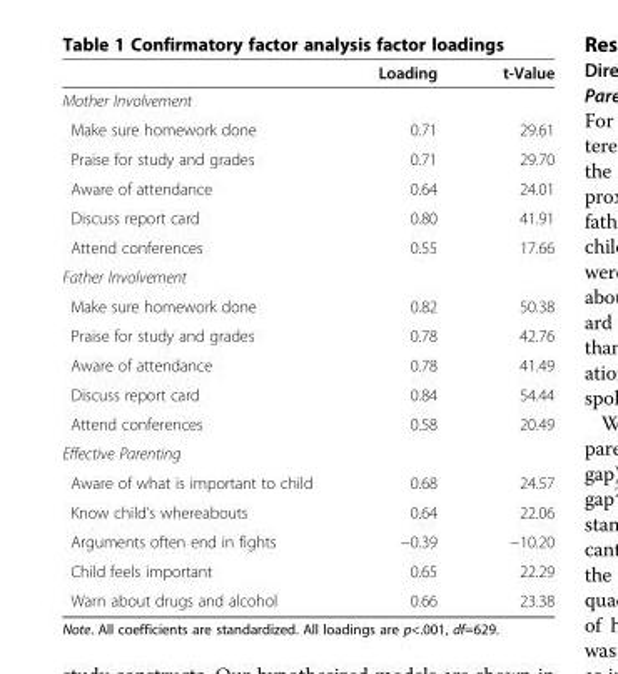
<table><thead><tr><td></td><td>Loading</td><td>t-Value</td></tr></thead><tbody><tr><td colspan="3">Mother Involvement</td></tr><tr><td>Make sure homework done</td><td>0.71</td><td>29.61</td></tr><tr><td>Praise for study and grades</td><td>0.71</td><td>29.70</td></tr><tr><td>Aware of attendance</td><td>0.64</td><td>24.01</td></tr><tr><td>Discuss report card</td><td>0.80</td><td>41.91</td></tr><tr><td>Attend conferences</td><td>0.55</td><td>17.66</td></tr><tr><td colspan="3">Father Involvement</td></tr><tr><td>Make sure homework done</td><td>0.82</td><td>50.38</td></tr><tr><td>Praise for study and grades</td><td>0.78</td><td>42.76</td></tr><tr><td>Aware of attendance</td><td>0.78</td><td>41.49</td></tr><tr><td>Discuss report card</td><td>0.84</td><td>54.44</td></tr><tr><td>Attend conferences</td><td>0.58</td><td>20.49</td></tr><tr><td colspan="3">Effective Parenting</td></tr><tr><td>Aware of what is important to child</td><td>0.68</td><td>24.57</td></tr><tr><td>Know child’s whereabouts</td><td>0.64</td><td>22.06</td></tr><tr><td>Arguments often end in fights</td><td>−0.39</td><td>−10.20</td></tr><tr><td>Child feels important</td><td>0.65</td><td>22.29</td></tr><tr><td>Warn about drugs and alcohol</td><td>0.66</td><td>23.38</td></tr></tbody></table>